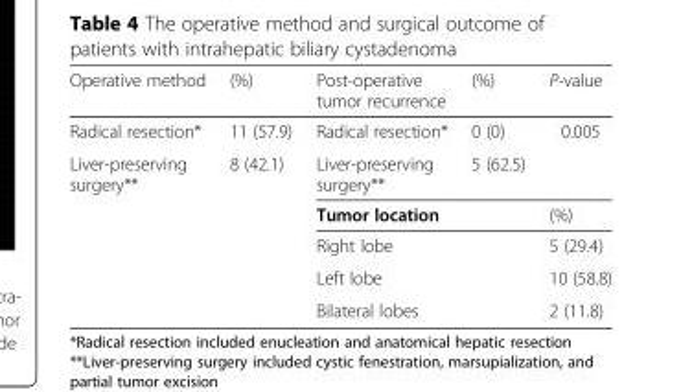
<table><thead><tr><td>Operative method</td><td>(%)</td><td>Post-operative tumor recurrence</td><td>(%)</td><td>P-value</td></tr></thead><tbody><tr><td>Radical resection*</td><td>11 (57.9)</td><td>Radical resection*</td><td>0 (0)</td><td rowspan="2">0.005</td></tr><tr><td rowspan="5">Liver-preserving surgery**</td><td rowspan="5">8 (42.1)</td><td>Liver-preserving surgery**</td><td>5 (62.5)</td></tr><tr><td>Tumor location</td><td></td><td>(%)</td></tr><tr><td>Right lobe</td><td></td><td>5 (29.4)</td></tr><tr><td>Left lobe</td><td></td><td>10 (58.8)</td></tr><tr><td>Bilateral lobes</td><td></td><td>2 (11.8)</td></tr></tbody></table>